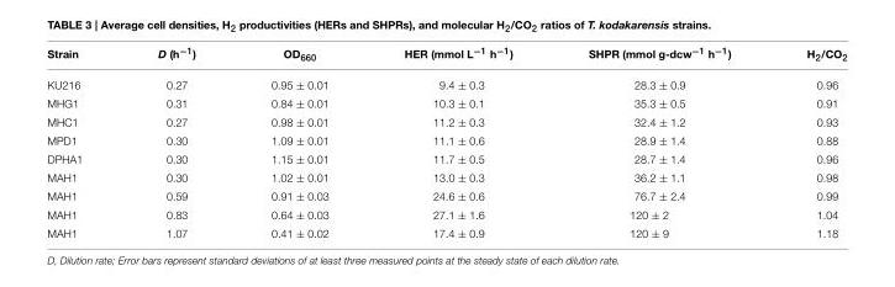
<table><thead><tr><td>Strain</td><td>D (h<sup>−1</sup>)</td><td>OD<sub>660</sub></td><td>HER (mmol L<sup>−1</sup> h<sup>−1</sup>)</td><td>SHPR (mmol g-dcw<sup>−1</sup> h<sup>−1</sup>)</td><td>H<sub>2</sub>/CO<sub>2</sub></td></tr></thead><tbody><tr><td>KU216</td><td>0.27</td><td>0.95 ± 0.01</td><td>9.4 ± 0.3</td><td>28.3 ± 0.9</td><td>0.96</td></tr><tr><td>MHG1</td><td>0.31</td><td>0.84 ± 0.01</td><td>10.3 ± 0.1</td><td>35.3 ± 0.5</td><td>0.91</td></tr><tr><td>MHC1</td><td>0.27</td><td>0.98 ± 0.01</td><td>11.2 ± 0.3</td><td>32.4 ± 1.2</td><td>0.93</td></tr><tr><td>MPD1</td><td>0.30</td><td>1.09 ± 0.01</td><td>11.1 ± 0.6</td><td>28.9 ± 1.4</td><td>0.88</td></tr><tr><td>DPHA1</td><td>0.30</td><td>1.15 ± 0.01</td><td>11.7 ± 0.5</td><td>28.7 ± 1.4</td><td>0.96</td></tr><tr><td>MAH1</td><td>0.30</td><td>1.02 ± 0.01</td><td>13.0 ± 0.3</td><td>36.2 ± 1.1</td><td>0.98</td></tr><tr><td>MAH1</td><td>0.59</td><td>0.91 ± 0.03</td><td>24.6 ± 0.6</td><td>76.7 ± 2.4</td><td>0.99</td></tr><tr><td>MAH1</td><td>0.83</td><td>0.64 ± 0.03</td><td>27.1 ± 1.6</td><td>120 ± 2</td><td>1.04</td></tr><tr><td>MAH1</td><td>1.07</td><td>0.41 ± 0.02</td><td>17.4 ± 0.9</td><td>120 ± 9</td><td>1.18</td></tr></tbody></table>